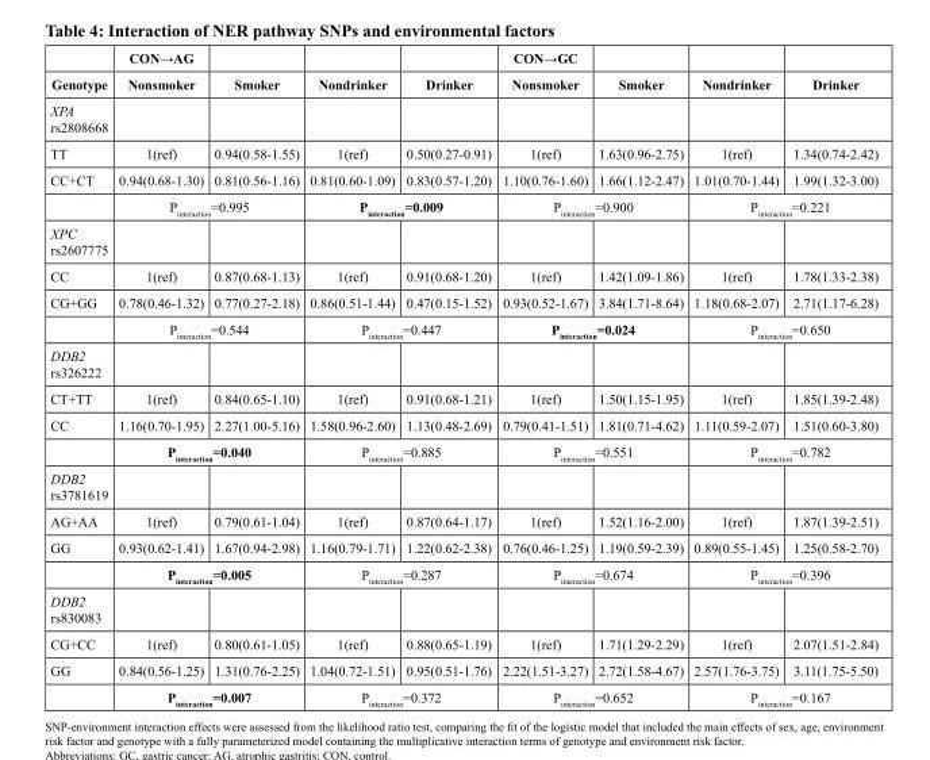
<table><thead><tr><td rowspan="2">Genotype</td><td rowspan="2">CON→AG Nonsmoker</td><td rowspan="2">Smoker</td><td rowspan="2">Nondrinker</td><td rowspan="2">Drinker</td><td rowspan="2">CON→GC Nonsmoker</td><td rowspan="2">Smoker</td><td rowspan="2">Nondrinker</td><td rowspan="2">Drinker</td></tr><tr></tr></thead><tbody><tr><td colspan="9">XPA rs2808668</td></tr><tr><td>TT</td><td>1(ref)</td><td>0.94(0.58-1.55)</td><td>1(ref)</td><td>0.50(0.27-0.91)</td><td>1(ref)</td><td>1.63(0.96-2.75)</td><td>1(ref)</td><td>1.34(0.74-2.42)</td></tr><tr><td rowspan="2">CC+CT</td><td>0.94(0.68-1.30)</td><td>0.81(0.56-1.16)</td><td>0.81(0.60-1.09)</td><td>0.83(0.57-1.20)</td><td>1.10(0.76-1.60)</td><td>1.66(1.12-2.47)</td><td>1.01(0.70-1.44)</td><td>1.99(1.32-3.00)</td></tr><tr><td colspan="2">P<sub>interaction</sub>=0.995</td><td colspan="2">P<sub>interaction</sub>=0.009</td><td colspan="2">P<sub>interaction</sub>=0.900</td><td colspan="2">P<sub>interaction</sub>=0.221</td></tr><tr><td colspan="9">XPC rs2607775</td></tr><tr><td>CC</td><td>1(ref)</td><td>0.87(0.68-1.13)</td><td>1(ref)</td><td>0.91(0.68-1.20)</td><td>1(ref)</td><td>1.42(1.09-1.86)</td><td>1(ref)</td><td>1.78(1.33-2.38)</td></tr><tr><td rowspan="2">CG+GG</td><td>0.78(0.46-1.32)</td><td>0.77(0.27-2.18)</td><td>0.86(0.51-1.44)</td><td>0.47(0.15-1.52)</td><td>0.93(0.52-1.67)</td><td>3.84(1.71-8.64)</td><td>1.18(0.68-2.07)</td><td>2.71(1.17-6.28)</td></tr><tr><td colspan="2">P<sub>interaction</sub>=0.544</td><td colspan="2">P<sub>interaction</sub>=0.447</td><td colspan="2">P<sub>interaction</sub>=0.024</td><td colspan="2">P<sub>interaction</sub>=0.650</td></tr><tr><td colspan="9">DDB2 rs326222</td></tr><tr><td>CT+TT</td><td>1(ref)</td><td>0.84(0.65-1.10)</td><td>1(ref)</td><td>0.91(0.68-1.21)</td><td>1(ref)</td><td>1.50(1.15-1.95)</td><td>1(ref)</td><td>1.85(1.39-2.48)</td></tr><tr><td rowspan="2">CC</td><td>1.16(0.70-1.95)</td><td>2.27(1.00-5.16)</td><td>1.58(0.96-2.60)</td><td>1.13(0.48-2.69)</td><td>0.79(0.41-1.51)</td><td>1.81(0.71-4.62)</td><td>1.11(0.59-2.07)</td><td>1.51(0.60-3.80)</td></tr><tr><td colspan="2">P<sub>interaction</sub>=0.040</td><td colspan="2">P<sub>interaction</sub>=0.885</td><td colspan="2">P<sub>interaction</sub>=0.551</td><td colspan="2">P<sub>interaction</sub>=0.782</td></tr><tr><td colspan="9">DDB2 rs3781619</td></tr><tr><td>AG+AA</td><td>1(ref)</td><td>0.79(0.61-1.04)</td><td>1(ref)</td><td>0.87(0.64-1.17)</td><td>1(ref)</td><td>1.52(1.16-2.00)</td><td>1(ref)</td><td>1.87(1.39-2.51)</td></tr><tr><td rowspan="2">GG</td><td>0.93(0.62-1.41)</td><td>1.67(0.94-2.98)</td><td>1.16(0.79-1.71)</td><td>1.22(0.62-2.38)</td><td>0.76(0.46-1.25)</td><td>1.19(0.59-2.39)</td><td>0.89(0.55-1.45)</td><td>1.25(0.58-2.70)</td></tr><tr><td colspan="2">P<sub>interaction</sub>=0.005</td><td colspan="2">P<sub>interaction</sub>=0.287</td><td colspan="2">P<sub>interaction</sub>=0.674</td><td colspan="2">P<sub>interaction</sub>=0.396</td></tr><tr><td colspan="9">DDB2 rs830083</td></tr><tr><td>CG+CC</td><td>1(ref)</td><td>0.80(0.61-1.05)</td><td>1(ref)</td><td>0.88(0.65-1.19)</td><td>1(ref)</td><td>1.71(1.29-2.29)</td><td>1(ref)</td><td>2.07(1.51-2.84)</td></tr><tr><td rowspan="2">GG</td><td>0.84(0.56-1.25)</td><td>1.31(0.76-2.25)</td><td>1.04(0.72-1.51)</td><td>0.95(0.51-1.76)</td><td>2.22(1.51-3.27)</td><td>2.72(1.58-4.67)</td><td>2.57(1.76-3.75)</td><td>3.11(1.75-5.50)</td></tr><tr><td colspan="2">P<sub>interaction</sub>=0.007</td><td colspan="2">P<sub>interaction</sub>=0.372</td><td colspan="2">P<sub>interaction</sub>=0.652</td><td colspan="2">P<sub>interaction</sub>=0.167</td></tr></tbody></table>